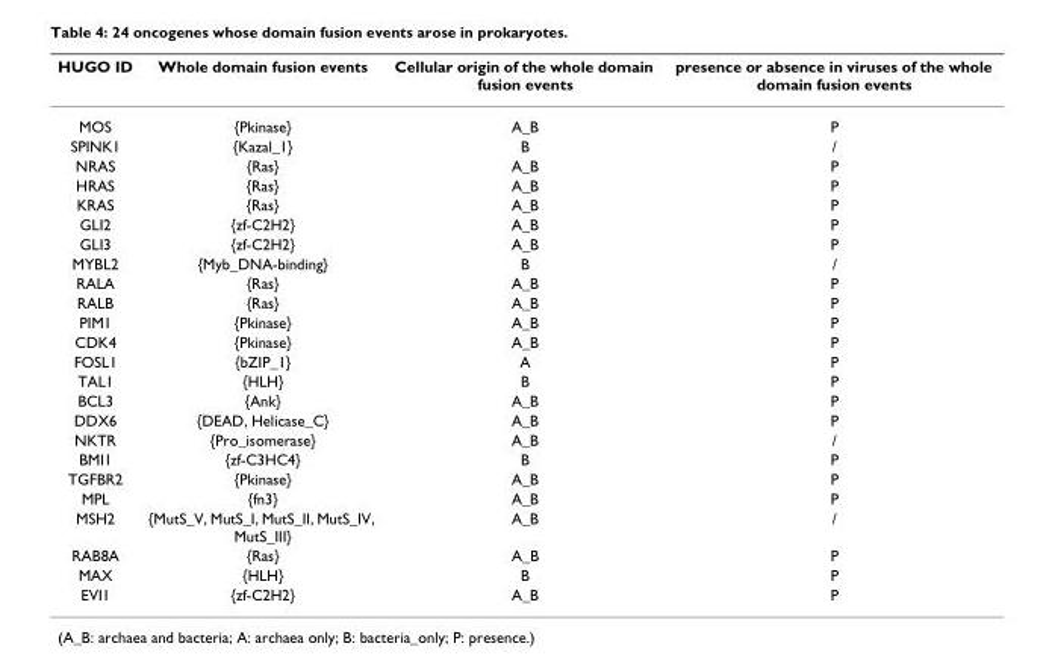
<table><thead><tr><td>HUGO ID</td><td>Whole domain fusion events</td><td>Cellular origin of the whole domain fusion events</td><td>presence or absence in viruses of the whole domain fusion events</td></tr></thead><tbody><tr><td>MOS</td><td>{Pkinase}</td><td>A_B</td><td>P</td></tr><tr><td>SPINK1</td><td>{Kazal_1}</td><td>B</td><td>/</td></tr><tr><td>NRAS</td><td>{Ras}</td><td>A_B</td><td>P</td></tr><tr><td>HRAS</td><td>{Ras}</td><td>A_B</td><td>P</td></tr><tr><td>KRAS</td><td>{Ras}</td><td>A_B</td><td>P</td></tr><tr><td>GLI2</td><td>{zf-C2H2}</td><td>A_B</td><td>P</td></tr><tr><td>GLI3</td><td>{zf-C2H2}</td><td>A_B</td><td>P</td></tr><tr><td>MYBL2</td><td>{Myb_DNA-binding}</td><td>B</td><td>/</td></tr><tr><td>RALA</td><td>{Ras}</td><td>A_B</td><td>P</td></tr><tr><td>RALB</td><td>{Ras}</td><td>A_B</td><td>P</td></tr><tr><td>PIM1</td><td>{Pkinase}</td><td>A_B</td><td>P</td></tr><tr><td>CDK4</td><td>{Pkinase}</td><td>A_B</td><td>P</td></tr><tr><td>FOSL1</td><td>{bZIP_1}</td><td>A</td><td>P</td></tr><tr><td>TAL1</td><td>{HLH}</td><td>B</td><td>P</td></tr><tr><td>BCL3</td><td>{Ank}</td><td>A_B</td><td>P</td></tr><tr><td>DDX6</td><td>{DEAD, Helicase_C}</td><td>A_B</td><td>P</td></tr><tr><td>NKTR</td><td>{Pro_isomerase}</td><td>A_B</td><td>/</td></tr><tr><td>BMI1</td><td>{zf-C3HC4}</td><td>B</td><td>P</td></tr><tr><td>TGFBR2</td><td>{Pkinase}</td><td>A_B</td><td>P</td></tr><tr><td>MPL</td><td>{fn3}</td><td>A_B</td><td>P</td></tr><tr><td>MSH2</td><td>{MutS_V, MutS_I, MutS_II, MutS_IV, MutS_III}</td><td>A_B</td><td>/</td></tr><tr><td>RAB8A</td><td>{Ras}</td><td>A_B</td><td>P</td></tr><tr><td>MAX</td><td>{HLH}</td><td>B</td><td>P</td></tr><tr><td>EVI1</td><td>{zf-C2H2}</td><td>A_B</td><td>P</td></tr></tbody></table>